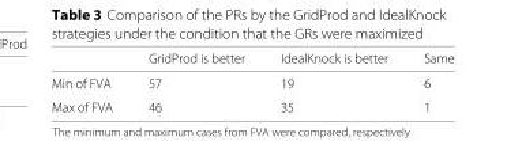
<table><thead><tr><td></td><td>GridProd is better</td><td>IdealKnock is better</td><td>Same</td></tr></thead><tbody><tr><td>Min of FVA</td><td>57</td><td>19</td><td>6</td></tr><tr><td>Max of FVA</td><td>46</td><td>35</td><td>1</td></tr></tbody></table>